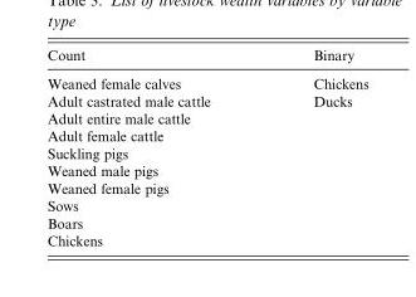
<table><thead><tr><td>Count</td><td>Binary</td></tr></thead><tbody><tr><td>Weaned female calves</td><td>Chickens</td></tr><tr><td>Adult castrated male cattle</td><td>Ducks</td></tr><tr><td colspan="2">Adult entire male cattle</td></tr><tr><td colspan="2">Adult female cattle</td></tr><tr><td colspan="2">Suckling pigs</td></tr><tr><td colspan="2">Weaned male pigs</td></tr><tr><td colspan="2">Weaned female pigs</td></tr><tr><td colspan="2">Sows</td></tr><tr><td colspan="2">Boars</td></tr><tr><td>Chickens</td><td></td></tr></tbody></table>